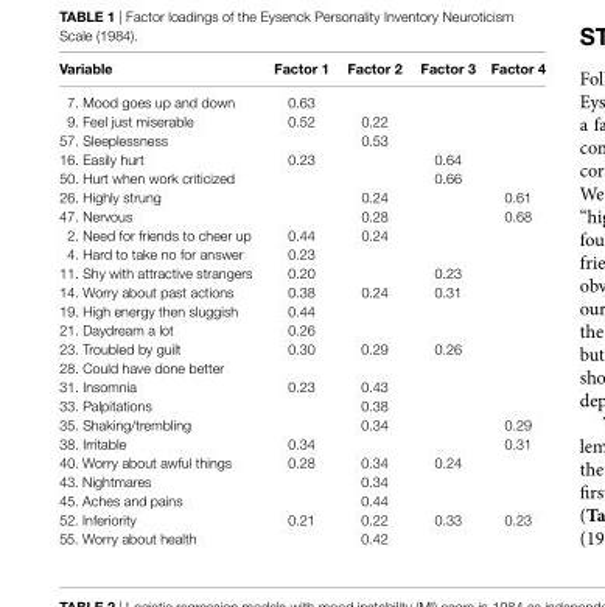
<table><thead><tr><td>Variable</td><td>Factor 1</td><td>Factor 2</td><td>Factor 3</td><td>Factor 4</td></tr></thead><tbody><tr><td>7. Mood goes up and down</td><td>0.63</td><td></td><td></td><td></td></tr><tr><td>9. Feel just miserable</td><td>0.52</td><td>0.22</td><td></td><td></td></tr><tr><td>57. Sleeplessness</td><td></td><td>0.53</td><td></td><td></td></tr><tr><td>16. Easily hurt</td><td>0.23</td><td></td><td>0.64</td><td></td></tr><tr><td>50. Hurt when work criticized</td><td></td><td></td><td>0.66</td><td></td></tr><tr><td>26. Highly strung</td><td></td><td>0.24</td><td></td><td>0.61</td></tr><tr><td>47. Nervous</td><td></td><td>0.28</td><td></td><td>0.68</td></tr><tr><td>2. Need for friends to cheer up</td><td>0.44</td><td>0.24</td><td></td><td></td></tr><tr><td>4. Hard to take no for answer</td><td>0.23</td><td></td><td></td><td></td></tr><tr><td>11. Shy with attractive strangers</td><td>0.20</td><td></td><td>0.23</td><td></td></tr><tr><td>14. Worry about past actions</td><td>0.38</td><td>0.24</td><td>0.31</td><td></td></tr><tr><td>19. High energy then sluggish</td><td>0.44</td><td></td><td></td><td></td></tr><tr><td>21. Daydream a lot</td><td>0.26</td><td></td><td></td><td></td></tr><tr><td>23. Troubled by guilt</td><td>0.30</td><td>0.29</td><td>0.26</td><td></td></tr><tr><td colspan="5">28. Could have done better</td></tr><tr><td>31. Insomnia</td><td>0.23</td><td>0.43</td><td></td><td></td></tr><tr><td>33. Palpitations</td><td></td><td>0.38</td><td></td><td></td></tr><tr><td>35. Shaking/trembling</td><td></td><td>0.34</td><td></td><td>0.29</td></tr><tr><td>38. Irritable</td><td>0.34</td><td></td><td></td><td>0.31</td></tr><tr><td>40. Worry about awful things</td><td>0.28</td><td>0.34</td><td>0.24</td><td></td></tr><tr><td>43. Nightmares</td><td></td><td>0.34</td><td></td><td></td></tr><tr><td>45. Aches and pains</td><td></td><td>0.44</td><td></td><td></td></tr><tr><td>52. Inferiority</td><td>0.21</td><td>0.22</td><td>0.33</td><td>0.23</td></tr><tr><td>55. Worry about health</td><td></td><td>0.42</td><td></td><td></td></tr></tbody></table>